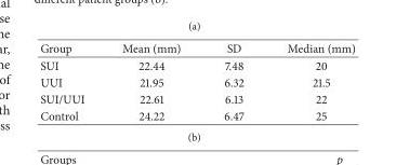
<table><thead><tr><td>Group</td><td>Mean (mm)</td><td>SD</td><td>Median (mm)</td></tr></thead><tbody><tr><td>SUI</td><td>22.44</td><td>7.48</td><td>20</td></tr><tr><td>UUI</td><td>21.95</td><td>6.32</td><td>21.5</td></tr><tr><td>SUI/UUI</td><td>22.61</td><td>6.13</td><td>22</td></tr><tr><td>Control</td><td>24.22</td><td>6.47</td><td>25</td></tr></tbody></table>